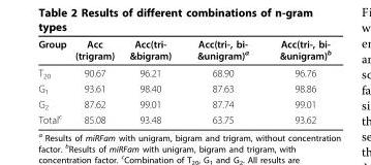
<table><thead><tr><td>Group</td><td>Acc (trigram)</td><td>Acc(tri- &amp;bigram)</td><td>Acc(tri-, bi- &amp;unigram)<sup>a</sup></td><td>Acc(tri-, bi- &amp;unigram)<sup>b</sup></td></tr></thead><tbody><tr><td>T<sub>20</sub></td><td>90.67</td><td>96.21</td><td>68.90</td><td>96.76</td></tr><tr><td>G<sub>1</sub></td><td>93.61</td><td>98.40</td><td>87.63</td><td>98.86</td></tr><tr><td>G<sub>2</sub></td><td>87.62</td><td>99.01</td><td>87.74</td><td>99.01</td></tr><tr><td>Total<sup>c</sup></td><td>85.08</td><td>93.48</td><td>63.75</td><td>93.62</td></tr></tbody></table>